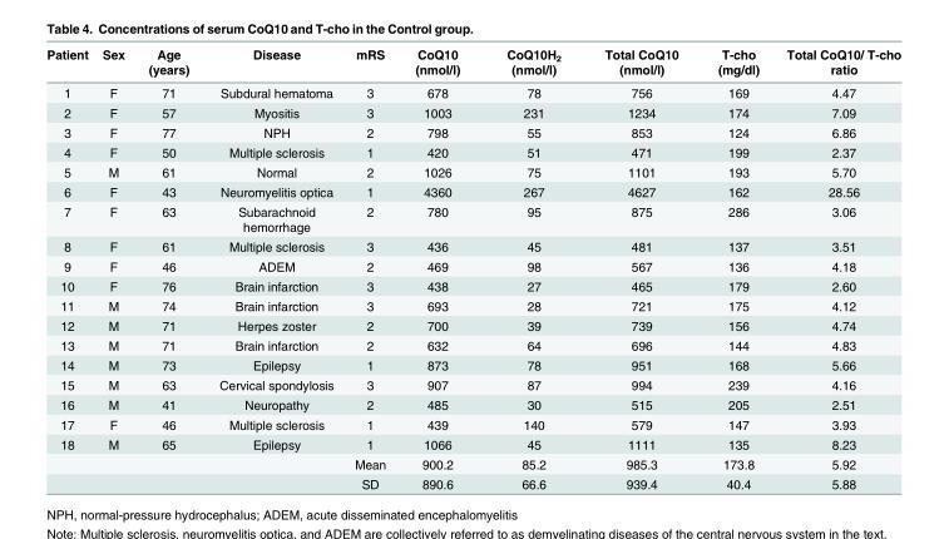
<table><thead><tr><td>Patient</td><td>Sex</td><td>Age (years)</td><td>Disease</td><td>mRS</td><td>CoQ10 (nmol/l)</td><td>CoQ10H<sub>2</sub> (nmol/l)</td><td>Total CoQ10 (nmol/l)</td><td>T-cho (mg/dl)</td><td>Total CoQ10/ T-cho ratio</td></tr></thead><tbody><tr><td>1</td><td>F</td><td>71</td><td>Subdural hematoma</td><td>3</td><td>678</td><td>78</td><td>756</td><td>169</td><td>4.47</td></tr><tr><td>2</td><td>F</td><td>57</td><td>Myositis</td><td>3</td><td>1003</td><td>231</td><td>1234</td><td>174</td><td>7.09</td></tr><tr><td>3</td><td>F</td><td>77</td><td>NPH</td><td>2</td><td>798</td><td>55</td><td>853</td><td>124</td><td>6.86</td></tr><tr><td>4</td><td>F</td><td>50</td><td>Multiple sclerosis</td><td>1</td><td>420</td><td>51</td><td>471</td><td>199</td><td>2.37</td></tr><tr><td>5</td><td>M</td><td>61</td><td>Normal</td><td>2</td><td>1026</td><td>75</td><td>1101</td><td>193</td><td>5.70</td></tr><tr><td>6</td><td>F</td><td>43</td><td>Neuromyelitis optica</td><td>1</td><td>4360</td><td>267</td><td>4627</td><td>162</td><td>28.56</td></tr><tr><td>7</td><td>F</td><td>63</td><td>Subarachnoid hemorrhage</td><td>2</td><td>780</td><td>95</td><td>875</td><td>286</td><td>3.06</td></tr><tr><td>8</td><td>F</td><td>61</td><td>Multiple sclerosis</td><td>3</td><td>436</td><td>45</td><td>481</td><td>137</td><td>3.51</td></tr><tr><td>9</td><td>F</td><td>46</td><td>ADEM</td><td>2</td><td>469</td><td>98</td><td>567</td><td>136</td><td>4.18</td></tr><tr><td>10</td><td>F</td><td>76</td><td>Brain infarction</td><td>3</td><td>438</td><td>27</td><td>465</td><td>179</td><td>2.60</td></tr><tr><td>11</td><td>M</td><td>74</td><td>Brain infarction</td><td>3</td><td>693</td><td>28</td><td>721</td><td>175</td><td>4.12</td></tr><tr><td>12</td><td>M</td><td>71</td><td>Herpes zoster</td><td>2</td><td>700</td><td>39</td><td>739</td><td>156</td><td>4.74</td></tr><tr><td>13</td><td>M</td><td>71</td><td>Brain infarction</td><td>2</td><td>632</td><td>64</td><td>696</td><td>144</td><td>4.83</td></tr><tr><td>14</td><td>M</td><td>73</td><td>Epilepsy</td><td>1</td><td>873</td><td>78</td><td>951</td><td>168</td><td>5.66</td></tr><tr><td>15</td><td>M</td><td>63</td><td>Cervical spondylosis</td><td>3</td><td>907</td><td>87</td><td>994</td><td>239</td><td>4.16</td></tr><tr><td>16</td><td>M</td><td>41</td><td>Neuropathy</td><td>2</td><td>485</td><td>30</td><td>515</td><td>205</td><td>2.51</td></tr><tr><td>17</td><td>F</td><td>46</td><td>Multiple sclerosis</td><td>1</td><td>439</td><td>140</td><td>579</td><td>147</td><td>3.93</td></tr><tr><td>18</td><td>M</td><td>65</td><td>Epilepsy</td><td>1</td><td>1066</td><td>45</td><td>1111</td><td>135</td><td>8.23</td></tr><tr><td colspan="3"></td><td></td><td>Mean</td><td>900.2</td><td>85.2</td><td>985.3</td><td>173.8</td><td>5.92</td></tr><tr><td colspan="3"></td><td></td><td>SD</td><td>890.6</td><td>66.6</td><td>939.4</td><td>40.4</td><td>5.88</td></tr></tbody></table>